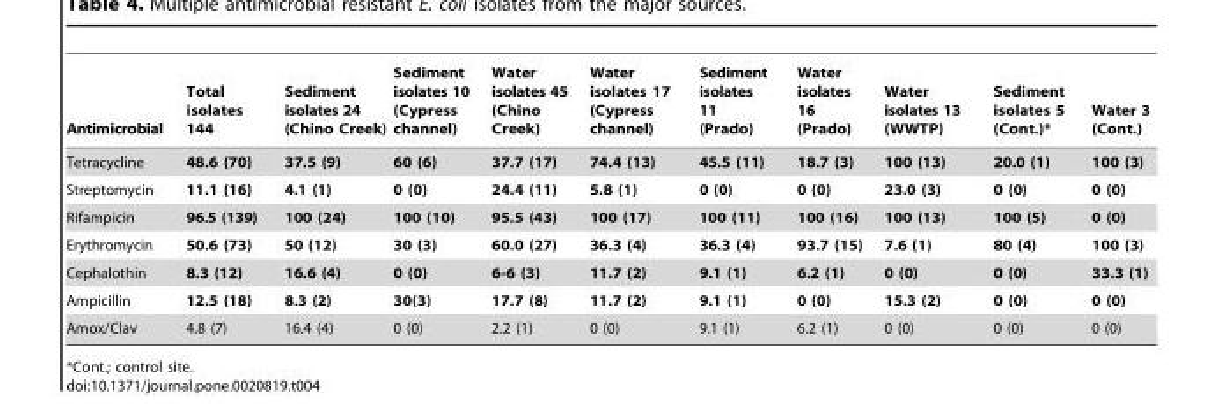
<table><thead><tr><td>Antimicrobial</td><td>Total isolates 144</td><td>Sediment isolates 24 (Chino Creek)</td><td>Sediment isolates 10 (Cypress channel)</td><td>Water isolates 45 (Chino Creek)</td><td>Water isolates 17 (Cypress channel)</td><td>Sediment isolates 11 (Prado)</td><td>Water isolates 16 (Prado)</td><td>Water isolates 13 (WWTP)</td><td>Sediment isolates 5 (Cont.)*</td><td>Water 3 (Cont.)</td></tr></thead><tbody><tr><td>Tetracycline</td><td>48.6 (70)</td><td>37.5 (9)</td><td>60 (6)</td><td>37.7 (17)</td><td>74.4 (13)</td><td>45.5 (11)</td><td>18.7 (3)</td><td>100 (13)</td><td>20.0 (1)</td><td>100 (3)</td></tr><tr><td>Streptomycin</td><td>11.1 (16)</td><td>4.1 (1)</td><td>0 (0)</td><td>24.4 (11)</td><td>5.8 (1)</td><td>0 (0)</td><td>0 (0)</td><td>23.0 (3)</td><td>0 (0)</td><td>0 (0)</td></tr><tr><td>Rifampicin</td><td>96.5 (139)</td><td>100 (24)</td><td>100 (10)</td><td>95.5 (43)</td><td>100 (17)</td><td>100 (11)</td><td>100 (16)</td><td>100 (13)</td><td>100 (5)</td><td>0 (0)</td></tr><tr><td>Erythromycin</td><td>50.6 (73)</td><td>50 (12)</td><td>30 (3)</td><td>60.0 (27)</td><td>36.3 (4)</td><td>36.3 (4)</td><td>93.7 (15)</td><td>7.6 (1)</td><td>80 (4)</td><td>100 (3)</td></tr><tr><td>Cephalothin</td><td>8.3 (12)</td><td>16.6 (4)</td><td>0 (0)</td><td>6-6 (3)</td><td>11.7 (2)</td><td>9.1 (1)</td><td>6.2 (1)</td><td>0 (0)</td><td>0 (0)</td><td>33.3 (1)</td></tr><tr><td>Ampicillin</td><td>12.5 (18)</td><td>8.3 (2)</td><td>30(3)</td><td>17.7 (8)</td><td>11.7 (2)</td><td>9.1 (1)</td><td>0 (0)</td><td>15.3 (2)</td><td>0 (0)</td><td>0 (0)</td></tr><tr><td>Amox/Clav</td><td>4.8 (7)</td><td>16.4 (4)</td><td>0 (0)</td><td>2.2 (1)</td><td>0 (0)</td><td>9.1 (1)</td><td>6.2 (1)</td><td>0 (0)</td><td>0 (0)</td><td>0 (0)</td></tr></tbody></table>